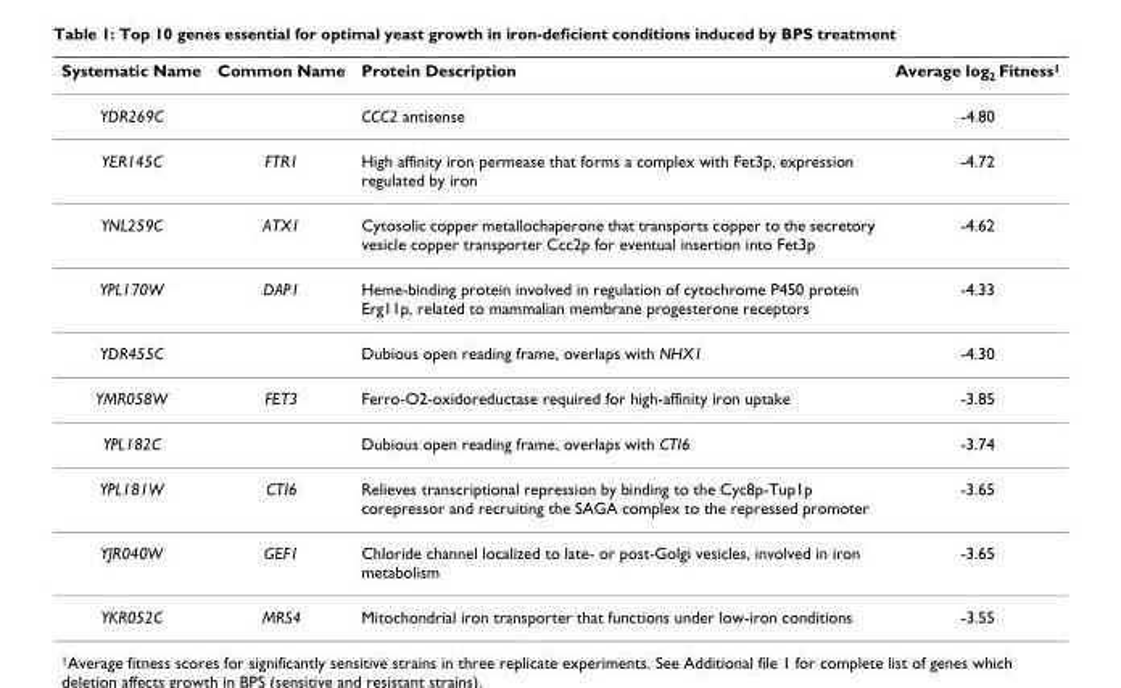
<table><thead><tr><td>Systematic Name</td><td>Common Name</td><td>Protein Description</td><td>Average log<sub>2</sub> Fitness<sup>1</sup></td></tr></thead><tbody><tr><td>YDR269C</td><td></td><td>CCC2 antisense</td><td>-4.80</td></tr><tr><td>YER145C</td><td>FTR1</td><td>High affinity iron permease that forms a complex with Fet3p, expression regulated by iron</td><td>-4.72</td></tr><tr><td>YNL259C</td><td>ATX1</td><td>Cytosolic copper metallochaperone that transports copper to the secretory vesicle copper transporter Ccc2p for eventual insertion into Fet3p</td><td>-4.62</td></tr><tr><td>YPL170W</td><td>DAP1</td><td>Heme-binding protein involved in regulation of cytochrome P450 protein Erg11p, related to mammalian membrane progesterone receptors</td><td>-4.33</td></tr><tr><td>YDR455C</td><td></td><td>Dubious open reading frame, overlaps with NHX1</td><td>-4.30</td></tr><tr><td>YMR058W</td><td>FET3</td><td>Ferro-O2-oxidoreductase required for high-affinity iron uptake</td><td>-3.85</td></tr><tr><td>YPL182C</td><td></td><td>Dubious open reading frame, overlaps with CTI6</td><td>-3.74</td></tr><tr><td>YPL181W</td><td>CTI6</td><td>Relieves transcriptional repression by binding to the Cyc8p-Tup1p corepressor and recruiting the SAGA complex to the repressed promoter</td><td>-3.65</td></tr><tr><td>YJR040W</td><td>GEF1</td><td>Chloride channel localized to late- or post-Golgi vesicles, involved in iron metabolism</td><td>-3.65</td></tr><tr><td>YKR052C</td><td>MRS4</td><td>Mitochondrial iron transporter that functions under low-iron conditions</td><td>-3.55</td></tr></tbody></table>